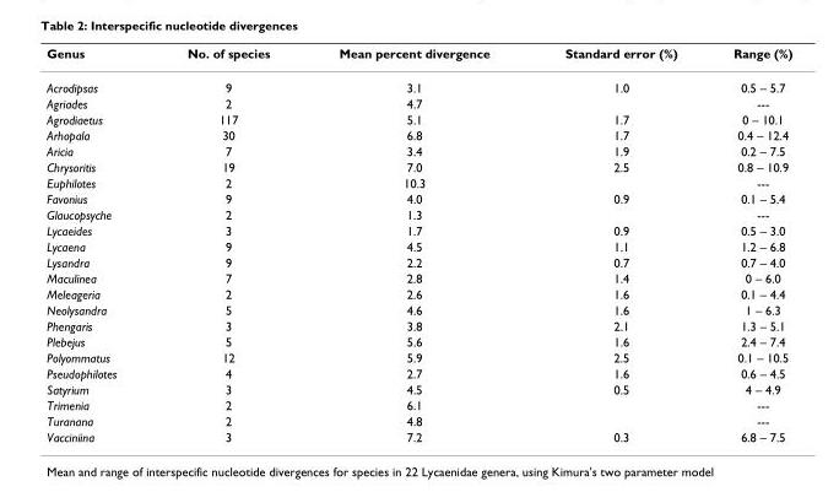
<table><thead><tr><td>Genus</td><td>No. of species</td><td>Mean percent divergence</td><td>Standard error (%)</td><td>Range (%)</td></tr></thead><tbody><tr><td>Acrodipsas</td><td>9</td><td>3.1</td><td>1.0</td><td>0.5 – 5.7</td></tr><tr><td>Agriades</td><td>2</td><td>4.7</td><td></td><td>---</td></tr><tr><td>Agrodiaetus</td><td>117</td><td>5.1</td><td>1.7</td><td>0 – 10.1</td></tr><tr><td>Arhopala</td><td>30</td><td>6.8</td><td>1.7</td><td>0.4 – 12.4</td></tr><tr><td>Aricia</td><td>7</td><td>3.4</td><td>1.9</td><td>0.2 – 7.5</td></tr><tr><td>Chrysoritis</td><td>19</td><td>7.0</td><td>2.5</td><td>0.8 – 10.9</td></tr><tr><td>Euphilotes</td><td>2</td><td>10.3</td><td></td><td>---</td></tr><tr><td>Favonius</td><td>9</td><td>4.0</td><td>0.9</td><td>0.1 – 5.4</td></tr><tr><td>Glaucopsyche</td><td>2</td><td>1.3</td><td></td><td>---</td></tr><tr><td>Lycaeides</td><td>3</td><td>1.7</td><td>0.9</td><td>0.5 – 3.0</td></tr><tr><td>Lycaena</td><td>9</td><td>4.5</td><td>1.1</td><td>1.2 – 6.8</td></tr><tr><td>Lysandra</td><td>9</td><td>2.2</td><td>0.7</td><td>0.7 – 4.0</td></tr><tr><td>Maculinea</td><td>7</td><td>2.8</td><td>1.4</td><td>0 – 6.0</td></tr><tr><td>Meleageria</td><td>2</td><td>2.6</td><td>1.6</td><td>0.1 – 4.4</td></tr><tr><td>Neolysandra</td><td>5</td><td>4.6</td><td>1.6</td><td>1 – 6.3</td></tr><tr><td>Phengaris</td><td>3</td><td>3.8</td><td>2.1</td><td>1.3 – 5.1</td></tr><tr><td>Plebejus</td><td>5</td><td>5.6</td><td>1.6</td><td>2.4 – 7.4</td></tr><tr><td>Polyommatus</td><td>12</td><td>5.9</td><td>2.5</td><td>0.1 – 10.5</td></tr><tr><td>Pseudophilotes</td><td>4</td><td>2.7</td><td>1.6</td><td>0.6 – 4.5</td></tr><tr><td>Satyrium</td><td>3</td><td>4.5</td><td>0.5</td><td>4 – 4.9</td></tr><tr><td>Trimenia</td><td>2</td><td>6.1</td><td></td><td>---</td></tr><tr><td>Turanana</td><td>2</td><td>4.8</td><td></td><td>---</td></tr><tr><td>Vacciniina</td><td>3</td><td>7.2</td><td>0.3</td><td>6.8 – 7.5</td></tr></tbody></table>